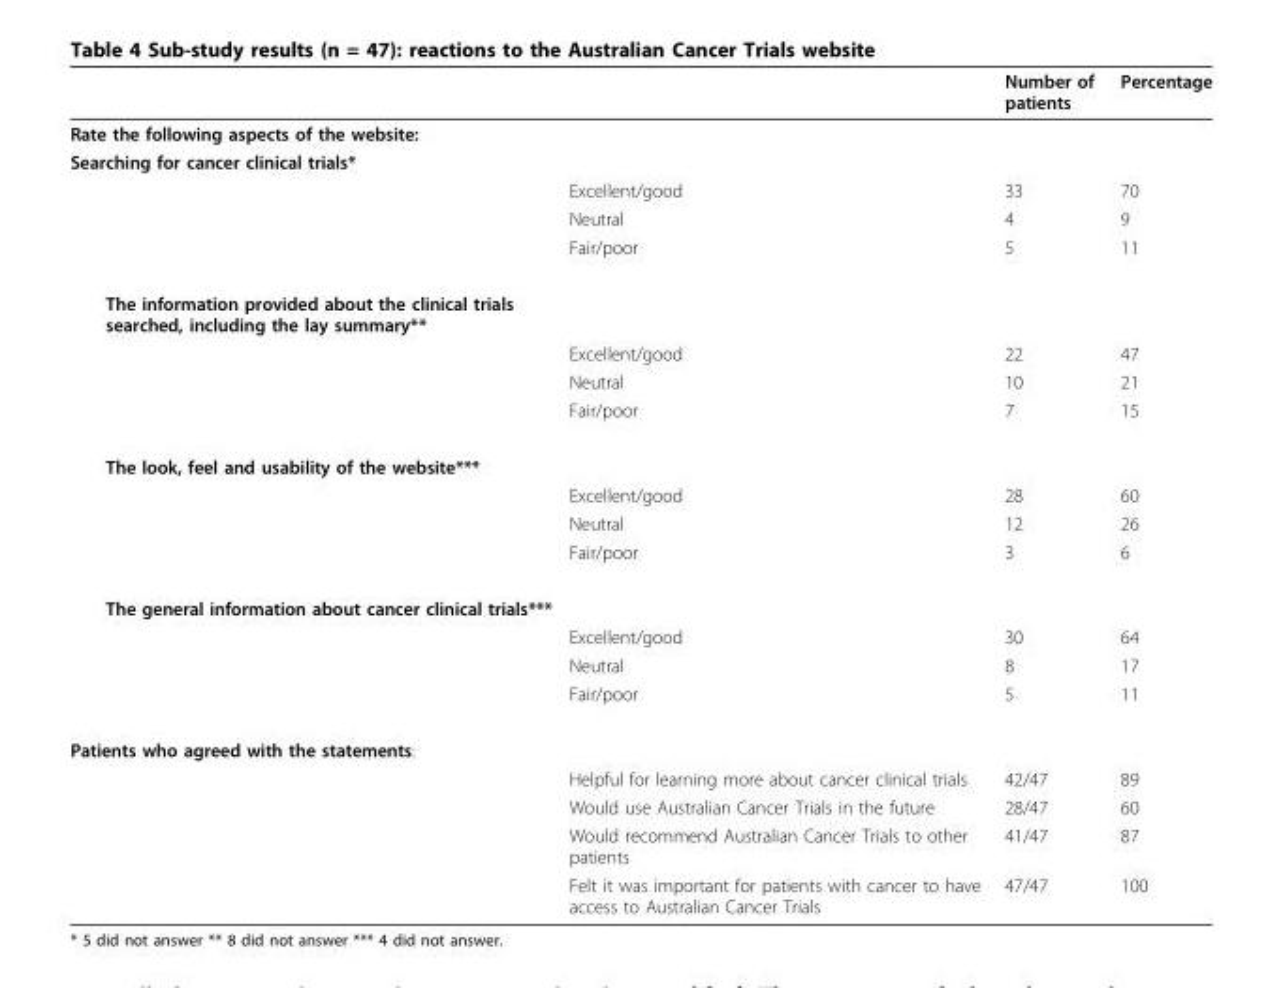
<table><thead><tr><td></td><td></td><td>Number of patients</td><td>Percentage</td></tr></thead><tbody><tr><td colspan="4">Rate the following aspects of the website:</td></tr><tr><td colspan="4">Searching for cancer clinical trials*</td></tr><tr><td></td><td>Excellent/good</td><td>33</td><td>70</td></tr><tr><td></td><td>Neutral</td><td>4</td><td>9</td></tr><tr><td></td><td>Fair/poor</td><td>5</td><td>11</td></tr><tr><td colspan="4">The information provided about the clinical trials searched, including the lay summary**</td></tr><tr><td></td><td>Excellent/good</td><td>22</td><td>47</td></tr><tr><td></td><td>Neutral</td><td>10</td><td>21</td></tr><tr><td></td><td>Fair/poor</td><td>7</td><td>15</td></tr><tr><td colspan="4">The look, feel and usability of the website***</td></tr><tr><td></td><td>Excellent/good</td><td>28</td><td>60</td></tr><tr><td></td><td>Neutral</td><td>12</td><td>26</td></tr><tr><td></td><td>Fair/poor</td><td>3</td><td>6</td></tr><tr><td colspan="4">The general information about cancer clinical trials***</td></tr><tr><td></td><td>Excellent/good</td><td>30</td><td>64</td></tr><tr><td></td><td>Neutral</td><td>8</td><td>17</td></tr><tr><td></td><td>Fair/poor</td><td>5</td><td>11</td></tr><tr><td colspan="4">Patients who agreed with the statements:</td></tr><tr><td></td><td>Helpful for learning more about cancer clinical trials</td><td>42/47</td><td>89</td></tr><tr><td></td><td>Would use Australian Cancer Trials in the future</td><td>28/47</td><td>60</td></tr><tr><td></td><td>Would recommend Australian Cancer Trials to other patients</td><td>41/47</td><td>87</td></tr><tr><td></td><td>Felt it was important for patients with cancer to have access to Australian Cancer Trials</td><td>47/47</td><td>100</td></tr></tbody></table>